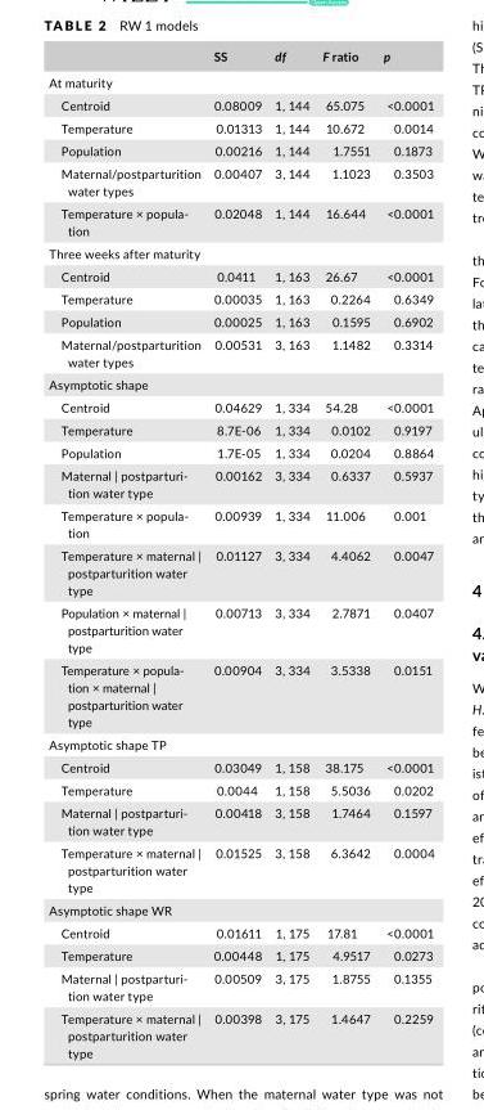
<table><thead><tr><td></td><td>SS</td><td>df</td><td>F ratio</td><td>p</td></tr></thead><tbody><tr><td colspan="5">At maturity</td></tr><tr><td>Centroid</td><td>0.08009</td><td>1, 144</td><td>65.075</td><td>&lt;0.0001</td></tr><tr><td>Temperature</td><td>0.01313</td><td>1, 144</td><td>10.672</td><td>0.0014</td></tr><tr><td>Population</td><td>0.00216</td><td>1, 144</td><td>1.7551</td><td>0.1873</td></tr><tr><td>Maternal/postparturition water types</td><td>0.00407</td><td>3, 144</td><td>1.1023</td><td>0.3503</td></tr><tr><td>Temperature × popula- tion</td><td>0.02048</td><td>1, 144</td><td>16.644</td><td>&lt;0.0001</td></tr><tr><td colspan="5">Three weeks after maturity</td></tr><tr><td>Centroid</td><td>0.0411</td><td>1, 163</td><td>26.67</td><td>&lt;0.0001</td></tr><tr><td>Temperature</td><td>0.00035</td><td>1, 163</td><td>0.2264</td><td>0.6349</td></tr><tr><td>Population</td><td>0.00025</td><td>1, 163</td><td>0.1595</td><td>0.6902</td></tr><tr><td>Maternal/postparturition water types</td><td>0.00531</td><td>3, 163</td><td>1.1482</td><td>0.3314</td></tr><tr><td colspan="5">Asymptotic shape</td></tr><tr><td>Centroid</td><td>0.04629</td><td>1, 334</td><td>54.28</td><td>&lt;0.0001</td></tr><tr><td>Temperature</td><td>8.7E- 06</td><td>1, 334</td><td>0.0102</td><td>0.9197</td></tr><tr><td>Population</td><td>1.7E- 05</td><td>1, 334</td><td>0.0204</td><td>0.8864</td></tr><tr><td>Maternal | postparturi- tion water type</td><td>0.00162</td><td>3, 334</td><td>0.6337</td><td>0.5937</td></tr><tr><td>Temperature × popula- tion</td><td>0.00939</td><td>1, 334</td><td>11.006</td><td>0.001</td></tr><tr><td>Temperature × maternal | postparturition water type</td><td>0.01127</td><td>3, 334</td><td>4.4062</td><td>0.0047</td></tr><tr><td>Population × maternal | postparturition water type</td><td>0.00713</td><td>3, 334</td><td>2.7871</td><td>0.0407</td></tr><tr><td>Temperature × popula- tion × maternal | postparturition water type</td><td>0.00904</td><td>3, 334</td><td>3.5338</td><td>0.0151</td></tr><tr><td colspan="5">Asymptotic shape TP</td></tr><tr><td>Centroid</td><td>0.03049</td><td>1, 158</td><td>38.175</td><td>&lt;0.0001</td></tr><tr><td>Temperature</td><td>0.0044</td><td>1, 158</td><td>5.5036</td><td>0.0202</td></tr><tr><td>Maternal | postparturi- tion water type</td><td>0.00418</td><td>3, 158</td><td>1.7464</td><td>0.1597</td></tr><tr><td>Temperature × maternal | postparturition water type</td><td>0.01525</td><td>3, 158</td><td>6.3642</td><td>0.0004</td></tr><tr><td colspan="5">Asymptotic shape WR</td></tr><tr><td>Centroid</td><td>0.01611</td><td>1, 175</td><td>17.81</td><td>&lt;0.0001</td></tr><tr><td>Temperature</td><td>0.00448</td><td>1, 175</td><td>4.9517</td><td>0.0273</td></tr><tr><td>Maternal | postparturi- tion water type</td><td>0.00509</td><td>3, 175</td><td>1.8755</td><td>0.1355</td></tr><tr><td>Temperature × maternal | postparturition water type</td><td>0.00398</td><td>3, 175</td><td>1.4647</td><td>0.2259</td></tr></tbody></table>